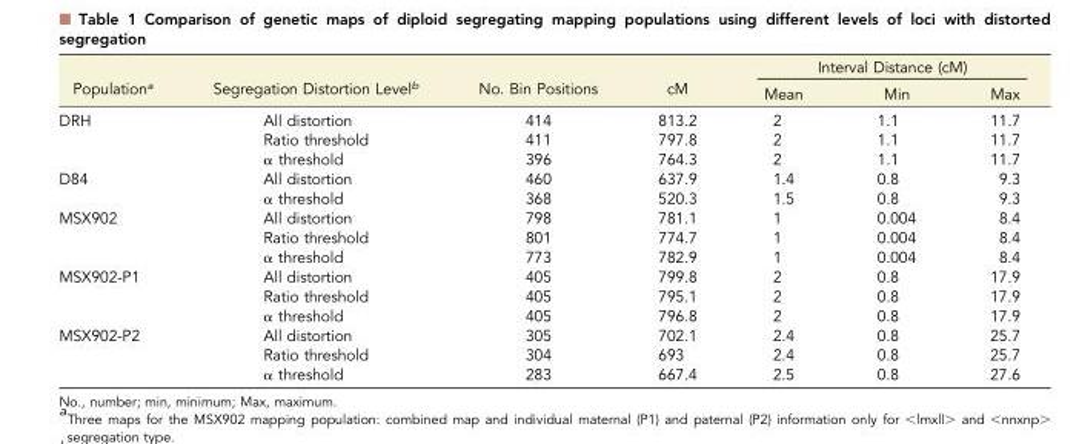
<table><thead><tr><td rowspan="2">Population<sup>a</sup></td><td rowspan="2">Segregation Distortion Level<sup>b</sup></td><td rowspan="2">No. Bin Positions</td><td rowspan="2">cM</td><td colspan="3">Interval Distance (cM)</td></tr><tr><td>Mean</td><td>Min</td><td>Max</td></tr></thead><tbody><tr><td rowspan="3">DRH</td><td>All distortion</td><td>414</td><td>813.2</td><td>2</td><td>1.1</td><td>11.7</td></tr><tr><td>Ratio threshold</td><td>411</td><td>797.8</td><td>2</td><td>1.1</td><td>11.7</td></tr><tr><td>α threshold</td><td>396</td><td>764.3</td><td>2</td><td>1.1</td><td>11.7</td></tr><tr><td rowspan="2">D84</td><td>All distortion</td><td>460</td><td>637.9</td><td>1.4</td><td>0.8</td><td>9.3</td></tr><tr><td>α threshold</td><td>368</td><td>520.3</td><td>1.5</td><td>0.8</td><td>9.3</td></tr><tr><td rowspan="3">MSX902</td><td>All distortion</td><td>798</td><td>781.1</td><td>1</td><td>0.004</td><td>8.4</td></tr><tr><td>Ratio threshold</td><td>801</td><td>774.7</td><td>1</td><td>0.004</td><td>8.4</td></tr><tr><td>α threshold</td><td>773</td><td>782.9</td><td>1</td><td>0.004</td><td>8.4</td></tr><tr><td rowspan="3">MSX902-P1</td><td>All distortion</td><td>405</td><td>799.8</td><td>2</td><td>0.8</td><td>17.9</td></tr><tr><td>Ratio threshold</td><td>405</td><td>795.1</td><td>2</td><td>0.8</td><td>17.9</td></tr><tr><td>α threshold</td><td>405</td><td>796.8</td><td>2</td><td>0.8</td><td>17.9</td></tr><tr><td rowspan="3">MSX902-P2</td><td>All distortion</td><td>305</td><td>702.1</td><td>2.4</td><td>0.8</td><td>25.7</td></tr><tr><td>Ratio threshold</td><td>304</td><td>693</td><td>2.4</td><td>0.8</td><td>25.7</td></tr><tr><td>α threshold</td><td>283</td><td>667.4</td><td>2.5</td><td>0.8</td><td>27.6</td></tr></tbody></table>